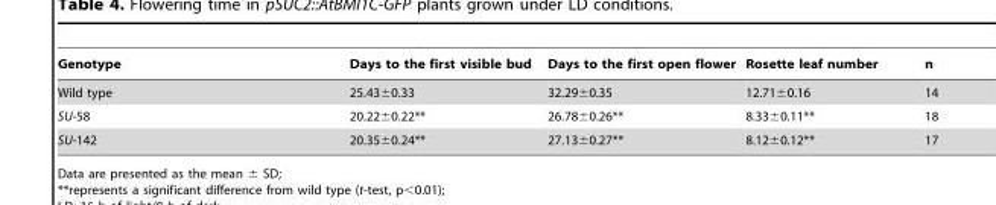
<table><thead><tr><td>Genotype</td><td>Days to the first visible bud</td><td>Days to the first open flower</td><td>Rosette leaf number</td><td>n</td></tr></thead><tbody><tr><td>Wild type</td><td>25.43±0.33</td><td>32.29±0.35</td><td>12.71±0.16</td><td>14</td></tr><tr><td>SU-58</td><td>20.22±0.22**</td><td>26.78±0.26**</td><td>8.33±0.11**</td><td>18</td></tr><tr><td>SU-142</td><td>20.35±0.24**</td><td>27.13±0.27**</td><td>8.12±0.12**</td><td>17</td></tr></tbody></table>